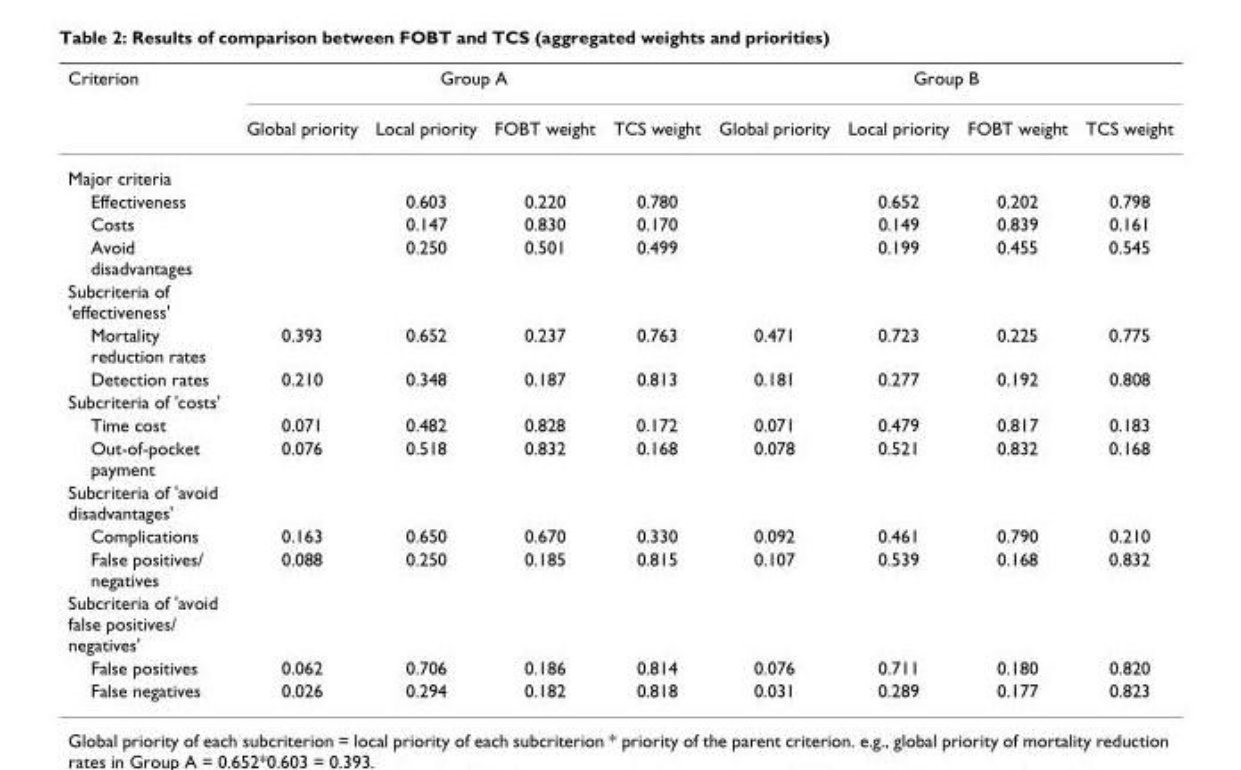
<table><thead><tr><td rowspan="2">Criterion</td><td colspan="4">Group A</td><td colspan="4">Group B</td></tr><tr><td>Global priority</td><td>Local priority</td><td>FOBT weight</td><td>TCS weight</td><td>Global priority</td><td>Local priority</td><td>FOBT weight</td><td>TCS weight</td></tr></thead><tbody><tr><td colspan="9">Major criteria</td></tr><tr><td>Effectiveness</td><td></td><td>0.603</td><td>0.220</td><td>0.780</td><td></td><td>0.652</td><td>0.202</td><td>0.798</td></tr><tr><td>Costs</td><td></td><td>0.147</td><td>0.830</td><td>0.170</td><td></td><td>0.149</td><td>0.839</td><td>0.161</td></tr><tr><td>Avoid disadvantages</td><td></td><td>0.250</td><td>0.501</td><td>0.499</td><td></td><td>0.199</td><td>0.455</td><td>0.545</td></tr><tr><td colspan="9">Subcriteria of &#x27;effectiveness&#x27;</td></tr><tr><td>Mortality reduction rates</td><td>0.393</td><td>0.652</td><td>0.237</td><td>0.763</td><td>0.471</td><td>0.723</td><td>0.225</td><td>0.775</td></tr><tr><td>Detection rates</td><td>0.210</td><td>0.348</td><td>0.187</td><td>0.813</td><td>0.181</td><td>0.277</td><td>0.192</td><td>0.808</td></tr><tr><td colspan="9">Subcriteria of &#x27;costs&#x27;</td></tr><tr><td>Time cost</td><td>0.071</td><td>0.482</td><td>0.828</td><td>0.172</td><td>0.071</td><td>0.479</td><td>0.817</td><td>0.183</td></tr><tr><td>Out-of-pocket payment</td><td>0.076</td><td>0.518</td><td>0.832</td><td>0.168</td><td>0.078</td><td>0.521</td><td>0.832</td><td>0.168</td></tr><tr><td colspan="9">Subcriteria of &#x27;avoid disadvantages&#x27;</td></tr><tr><td>Complications</td><td>0.163</td><td>0.650</td><td>0.670</td><td>0.330</td><td>0.092</td><td>0.461</td><td>0.790</td><td>0.210</td></tr><tr><td>False positives/ negatives</td><td>0.088</td><td>0.250</td><td>0.185</td><td>0.815</td><td>0.107</td><td>0.539</td><td>0.168</td><td>0.832</td></tr><tr><td colspan="9">Subcriteria of &#x27;avoid false positives/ negatives&#x27;</td></tr><tr><td>False positives</td><td>0.062</td><td>0.706</td><td>0.186</td><td>0.814</td><td>0.076</td><td>0.711</td><td>0.180</td><td>0.820</td></tr><tr><td>False negatives</td><td>0.026</td><td>0.294</td><td>0.182</td><td>0.818</td><td>0.031</td><td>0.289</td><td>0.177</td><td>0.823</td></tr></tbody></table>